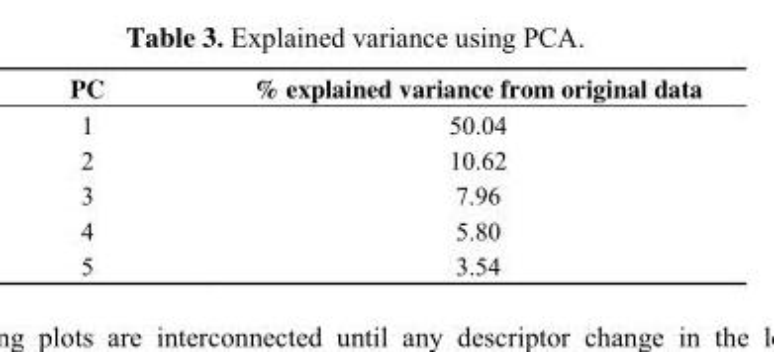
<table><thead><tr><td>PC</td><td>% explained variance from original data</td></tr></thead><tbody><tr><td>1</td><td>50.04</td></tr><tr><td>2</td><td>10.62</td></tr><tr><td>3</td><td>7.96</td></tr><tr><td>4</td><td>5.80</td></tr><tr><td>5</td><td>3.54</td></tr></tbody></table>